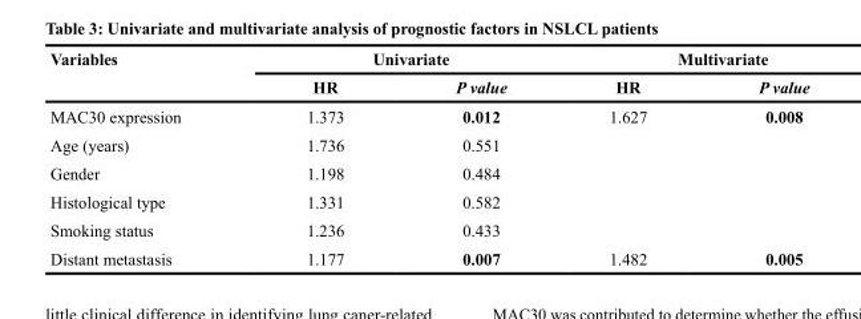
<table><thead><tr><td rowspan="2">Variables</td><td colspan="2">Univariate</td><td colspan="2">Multivariate</td></tr><tr><td>HR</td><td>P value</td><td>HR</td><td>P value</td></tr></thead><tbody><tr><td>MAC30 expression</td><td>1.373</td><td>0.012</td><td>1.627</td><td>0.008</td></tr><tr><td>Age (years)</td><td>1.736</td><td>0.551</td><td></td><td></td></tr><tr><td>Gender</td><td>1.198</td><td>0.484</td><td></td><td></td></tr><tr><td>Histological type</td><td>1.331</td><td>0.582</td><td></td><td></td></tr><tr><td>Smoking status</td><td>1.236</td><td>0.433</td><td></td><td></td></tr><tr><td>Distant metastasis</td><td>1.177</td><td>0.007</td><td>1.482</td><td>0.005</td></tr></tbody></table>